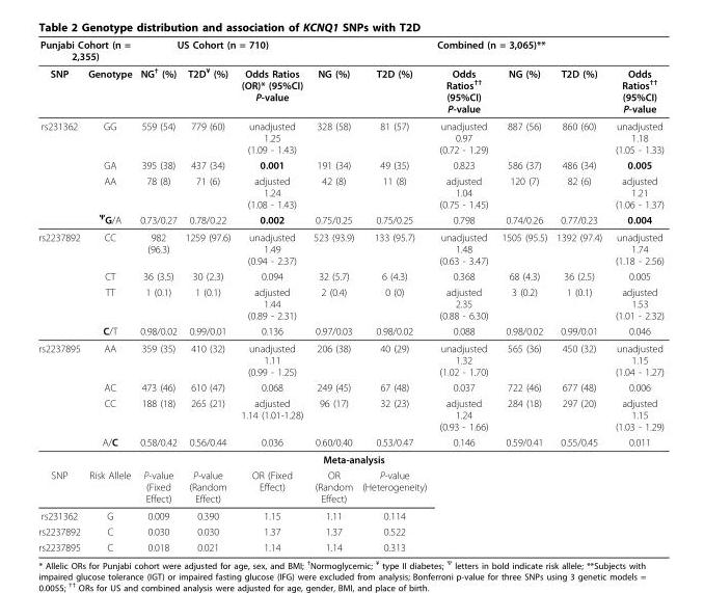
<table><thead><tr><td colspan="2">Punjabi Cohort (n = 2,355)</td><td colspan="3">US Cohort (n = 710)</td><td colspan="6">Combined (n = 3,065)**</td></tr><tr><td>SNP</td><td>Genotype</td><td>NG<sup>†</sup> (%)</td><td>T2D<sup>¥</sup> (%)</td><td>Odds Ratios (OR)* (95%CI) P-value</td><td>NG (%)</td><td>T2D (%)</td><td>Odds Ratios<sup>††</sup> (95%CI) P-value</td><td>NG (%)</td><td>T2D (%)</td><td>Odds Ratios<sup>††</sup> (95%CI) P-value</td></tr></thead><tbody><tr><td rowspan="4">rs231362</td><td>GG</td><td>559 (54)</td><td>779 (60)</td><td>unadjusted 1.25 (1.09 - 1.43)</td><td>328 (58)</td><td>81 (57)</td><td>unadjusted 0.97 (0.72 - 1.29)</td><td>887 (56)</td><td>860 (60)</td><td>unadjusted 1.18 (1.05 - 1.33)</td></tr><tr><td>GA</td><td>395 (38)</td><td>437 (34)</td><td>0.001</td><td>191 (34)</td><td>49 (35)</td><td>0.823</td><td>586 (37)</td><td>486 (34)</td><td>0.005</td></tr><tr><td>AA</td><td>78 (8)</td><td>71 (6)</td><td>adjusted 1.24 (1.08 - 1.43)</td><td>42 (8)</td><td>11 (8)</td><td>adjusted 1.04 (0.75 - 1.45)</td><td>120 (7)</td><td>82 (6)</td><td>adjusted 1.21 (1.06 - 1.37)</td></tr><tr><td><sup>Ψ</sup>G/A</td><td>0.73/0.27</td><td>0.78/0.22</td><td>0.002</td><td>0.75/0.25</td><td>0.75/0.25</td><td>0.798</td><td>0.74/0.26</td><td>0.77/0.23</td><td>0.004</td></tr><tr><td rowspan="4">rs2237892</td><td>CC</td><td>982 (96.3)</td><td>1259 (97.6)</td><td>unadjusted 1.49 (0.94 - 2.37)</td><td>523 (93.9)</td><td>133 (95.7)</td><td>unadjusted 1.48 (0.63 - 3.47)</td><td>1505 (95.5)</td><td>1392 (97.4)</td><td>unadjusted 1.74 (1.18 - 2.56)</td></tr><tr><td>CT</td><td>36 (3.5)</td><td>30 (2.3)</td><td>0.094</td><td>32 (5.7)</td><td>6 (4.3)</td><td>0.368</td><td>68 (4.3)</td><td>36 (2.5)</td><td>0.005</td></tr><tr><td>TT</td><td>1 (0.1)</td><td>1 (0.1)</td><td>adjusted 1.44 (0.89 - 2.31)</td><td>2 (0.4)</td><td>0 (0)</td><td>adjusted 2.35 (0.88 - 6.30)</td><td>3 (0.2)</td><td>1 (0.1)</td><td>adjusted 1.53 (1.01 - 2.32)</td></tr><tr><td>C/T</td><td>0.98/0.02</td><td>0.99/0.01</td><td>0.136</td><td>0.97/0.03</td><td>0.98/0.02</td><td>0.088</td><td>0.98/0.02</td><td>0.99/0.01</td><td>0.046</td></tr><tr><td rowspan="4">rs2237895</td><td>AA</td><td>359 (35)</td><td>410 (32)</td><td>unadjusted 1.11 (0.99 - 1.25)</td><td>206 (38)</td><td>40 (29)</td><td>unadjusted 1.32 (1.02 - 1.70)</td><td>565 (36)</td><td>450 (32)</td><td>unadjusted 1.15 (1.04 - 1.27)</td></tr><tr><td>AC</td><td>473 (46)</td><td>610 (47)</td><td>0.068</td><td>249 (45)</td><td>67 (48)</td><td>0.037</td><td>722 (46)</td><td>677 (48)</td><td>0.006</td></tr><tr><td>CC</td><td>188 (18)</td><td>265 (21)</td><td>adjusted 1.14 (1.01-1.28)</td><td>96 (17)</td><td>32 (23)</td><td>adjusted 1.24 (0.93 - 1.66)</td><td>284 (18)</td><td>297 (20)</td><td>adjusted 1.15 (1.03 - 1.29)</td></tr><tr><td>A/C</td><td>0.58/0.42</td><td>0.56/0.44</td><td>0.036</td><td>0.60/0.40</td><td>0.53/0.47</td><td>0.146</td><td>0.59/0.41</td><td>0.55/0.45</td><td>0.011</td></tr><tr><td colspan="11">Meta-analysis</td></tr><tr><td>SNP</td><td>Risk Allele</td><td>P-value (Fixed Effect)</td><td>P-value (Random Effect)</td><td>OR (Fixed Effect)</td><td>OR (Random Effect)</td><td>P-value (Heterogeneity)</td><td></td><td></td><td></td><td></td></tr><tr><td>rs231362</td><td>G</td><td>0.009</td><td>0.390</td><td>1.15</td><td>1.11</td><td>0.114</td><td></td><td></td><td></td><td></td></tr><tr><td>rs2237892</td><td>C</td><td>0.030</td><td>0.030</td><td>1.37</td><td>1.37</td><td>0.522</td><td></td><td></td><td></td><td></td></tr><tr><td>rs2237895</td><td>C</td><td>0.018</td><td>0.021</td><td>1.14</td><td>1.14</td><td>0.313</td><td></td><td></td><td></td><td></td></tr></tbody></table>